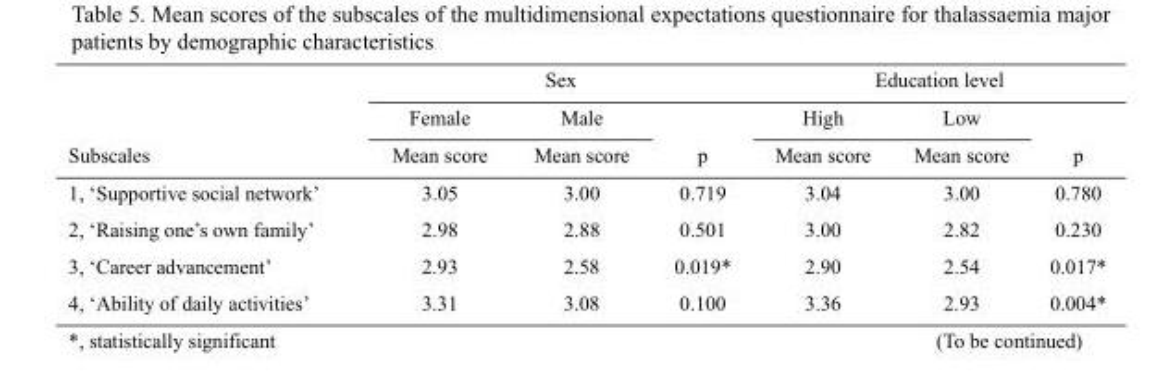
<table><thead><tr><td rowspan="3">Subscales</td><td colspan="3">Sex</td><td colspan="3">Education level</td></tr><tr><td rowspan="2">Female Mean score</td><td rowspan="2">Male Mean score</td><td rowspan="2">p</td><td rowspan="2">High Mean score</td><td rowspan="2">Low Mean score</td><td rowspan="2">p</td></tr><tr></tr></thead><tbody><tr><td>1, ‘Supportive social network’</td><td>3.05</td><td>3.00</td><td>0.719</td><td>3.04</td><td>3.00</td><td>0.780</td></tr><tr><td>2, ‘Raising one’s own family’</td><td>2.98</td><td>2.88</td><td>0.501</td><td>3.00</td><td>2.82</td><td>0.230</td></tr><tr><td>3, ‘Career advancement’</td><td>2.93</td><td>2.58</td><td>0.019*</td><td>2.90</td><td>2.54</td><td>0.017*</td></tr><tr><td>4, ‘Ability of daily activities’</td><td>3.31</td><td>3.08</td><td>0.100</td><td>3.36</td><td>2.93</td><td>0.004*</td></tr></tbody></table>